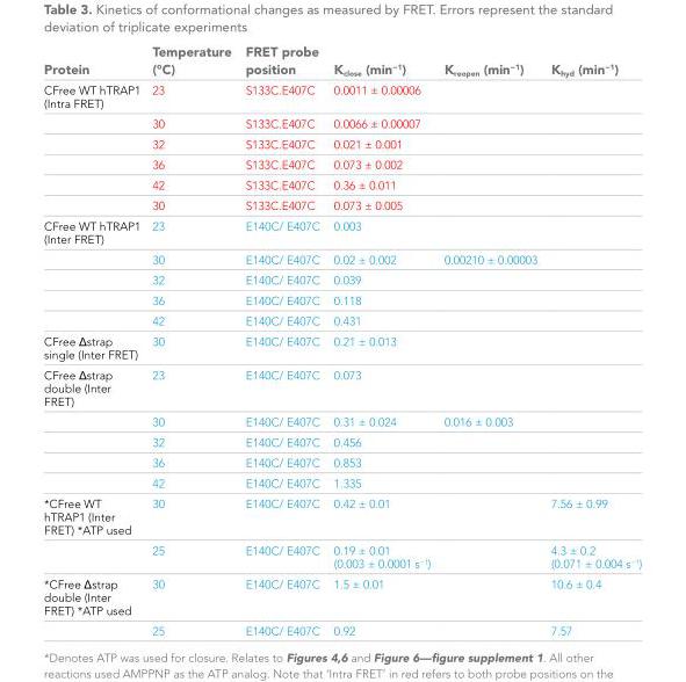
<table><thead><tr><td>Protein</td><td>Temperature (°C)</td><td>FRET probe position</td><td>K<sub>close</sub> (min<sup>−1</sup>)</td><td>K<sub>reopen</sub> (min<sup>−1</sup>)</td><td>K<sub>hyd</sub> (min<sup>−1</sup>)</td></tr></thead><tbody><tr><td rowspan="6">CFree WT hTRAP1 (Intra FRET)</td><td>23</td><td>S133C.E407C</td><td>0.0011 ± 0.00006</td><td></td><td></td></tr><tr><td>30</td><td>S133C.E407C</td><td>0.0066 ± 0.00007</td><td></td><td></td></tr><tr><td>32</td><td>S133C.E407C</td><td>0.021 ± 0.001</td><td></td><td></td></tr><tr><td>36</td><td>S133C.E407C</td><td>0.073 ± 0.002</td><td></td><td></td></tr><tr><td>42</td><td>S133C.E407C</td><td>0.36 ± 0.011</td><td></td><td></td></tr><tr><td>30</td><td>S133C.E407C</td><td>0.073 ± 0.005</td><td></td><td></td></tr><tr><td rowspan="5">CFree WT hTRAP1 (Inter FRET)</td><td>23</td><td>E140C/ E407C</td><td>0.003</td><td></td><td></td></tr><tr><td>30</td><td>E140C/ E407C</td><td>0.02 ± 0.002</td><td>0.00210 ± 0.00003</td><td></td></tr><tr><td>32</td><td>E140C/ E407C</td><td>0.039</td><td></td><td></td></tr><tr><td>36</td><td>E140C/ E407C</td><td>0.118</td><td></td><td></td></tr><tr><td>42</td><td>E140C/ E407C</td><td>0.431</td><td></td><td></td></tr><tr><td>CFree Δstrap single (Inter FRET)</td><td>30</td><td>E140C/ E407C</td><td>0.21 ± 0.013</td><td></td><td></td></tr><tr><td rowspan="5">CFree Δstrap double (Inter FRET)</td><td>23</td><td>E140C/ E407C</td><td>0.073</td><td></td><td></td></tr><tr><td>30</td><td>E140C/ E407C</td><td>0.31 ± 0.024</td><td>0.016 ± 0.003</td><td></td></tr><tr><td>32</td><td>E140C/ E407C</td><td>0.456</td><td></td><td></td></tr><tr><td>36</td><td>E140C/ E407C</td><td>0.853</td><td></td><td></td></tr><tr><td>42</td><td>E140C/ E407C</td><td>1.335</td><td></td><td></td></tr><tr><td rowspan="2">*CFree WT hTRAP1 (Inter FRET) *ATP used</td><td>30</td><td>E140C/ E407C</td><td>0.42 ± 0.01</td><td></td><td>7.56 ± 0.99</td></tr><tr><td>25</td><td>E140C/ E407C</td><td>0.19 ± 0.01 (0.003 ± 0.0001 s<sup>−1</sup>)</td><td></td><td>4.3 ± 0.2 (0.071 ± 0.004 s<sup>−1</sup>)</td></tr><tr><td rowspan="2">*CFree Δstrap double (Inter FRET) *ATP used</td><td>30</td><td>E140C/ E407C</td><td>1.5 ± 0.01</td><td></td><td>10.6 ± 0.4</td></tr><tr><td>25</td><td>E140C/ E407C</td><td>0.92</td><td></td><td>7.57</td></tr></tbody></table>